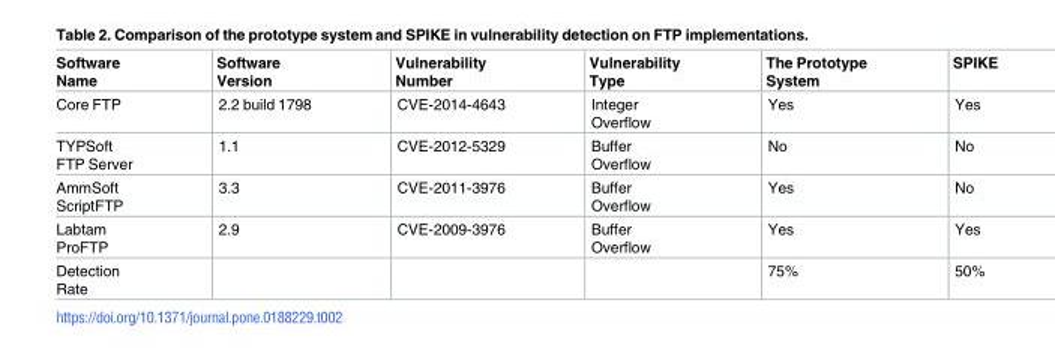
<table><thead><tr><td>Software Name</td><td>Software Version</td><td>Vulnerability Number</td><td>Vulnerability Type</td><td>The Prototype System</td><td>SPIKE</td></tr></thead><tbody><tr><td>Core FTP</td><td>2.2 build 1798</td><td>CVE-2014-4643</td><td>Integer Overflow</td><td>Yes</td><td>Yes</td></tr><tr><td>TYPSoft FTP Server</td><td>1.1</td><td>CVE-2012-5329</td><td>Buffer Overflow</td><td>No</td><td>No</td></tr><tr><td>AmmSoft ScriptFTP</td><td>3.3</td><td>CVE-2011-3976</td><td>Buffer Overflow</td><td>Yes</td><td>No</td></tr><tr><td>Labtam ProFTP</td><td>2.9</td><td>CVE-2009-3976</td><td>Buffer Overflow</td><td>Yes</td><td>Yes</td></tr><tr><td>Detection Rate</td><td></td><td></td><td></td><td>75%</td><td>50%</td></tr></tbody></table>